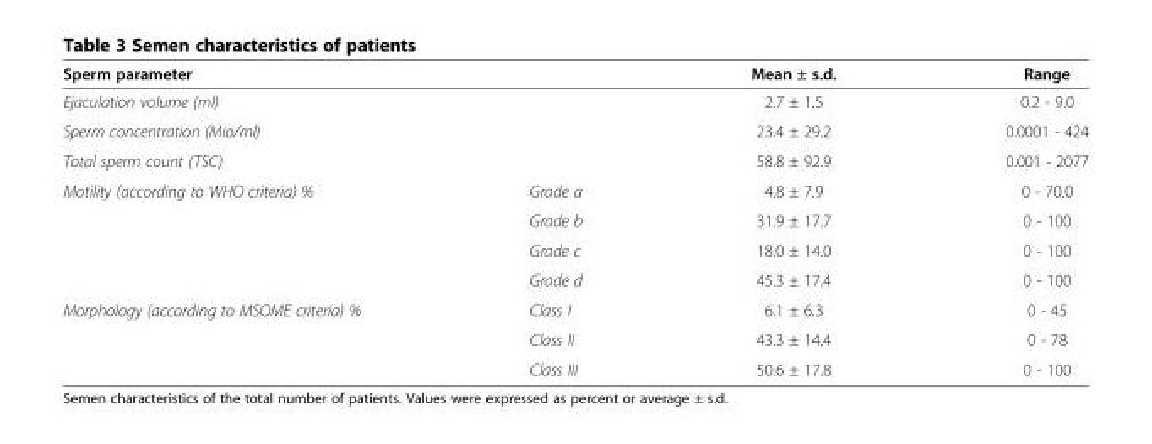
<table><thead><tr><td colspan="2">Sperm parameter</td><td>Mean ± s.d.</td><td>Range</td></tr></thead><tbody><tr><td colspan="2">Ejaculation volume (ml)</td><td>2.7 ± 1.5</td><td>0.2 - 9.0</td></tr><tr><td colspan="2">Sperm concentration (Mio/ml)</td><td>23.4 ± 29.2</td><td>0.0001 - 424</td></tr><tr><td colspan="2">Total sperm count (TSC)</td><td>58.8 ± 92.9</td><td>0.001 - 2077</td></tr><tr><td rowspan="4">Motility (according to WHO criteria) %</td><td>Grade a</td><td>4.8 ± 7.9</td><td>0 - 70.0</td></tr><tr><td>Grade b</td><td>31.9 ± 17.7</td><td>0 - 100</td></tr><tr><td>Grade c</td><td>18.0 ± 14.0</td><td>0 - 100</td></tr><tr><td>Grade d</td><td>45.3 ± 17.4</td><td>0 - 100</td></tr><tr><td rowspan="3">Morphology (according to MSOME criteria) %</td><td>Class I</td><td>6.1 ± 6.3</td><td>0 - 45</td></tr><tr><td>Class II</td><td>43.3 ± 14.4</td><td>0 - 78</td></tr><tr><td>Class III</td><td>50.6 ± 17.8</td><td>0 - 100</td></tr></tbody></table>